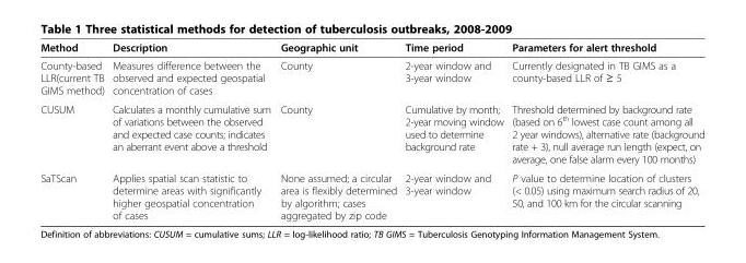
<table><thead><tr><td>Method</td><td>Description</td><td>Geographic unit</td><td>Time period</td><td>Parameters for alert threshold</td></tr></thead><tbody><tr><td>County-based LLR(current TB GIMS method)</td><td>Measures difference between the observed and expected geospatial concentration of cases</td><td>County</td><td>2-year window and 3-year window</td><td>Currently designated in TB GIMS as a county-based LLR of ≥ 5</td></tr><tr><td>CUSUM</td><td>Calculates a monthly cumulative sum of variations between the observed and expected case counts; indicates an aberrant event above a threshold</td><td>County</td><td>Cumulative by month; 2-year moving window used to determine background rate</td><td>Threshold determined by background rate (based on 6<sup>th</sup> lowest case count among all 2 year windows), alternative rate (background rate + 3), null average run length (expect, on average, one false alarm every 100 months)</td></tr><tr><td>SaTScan</td><td>Applies spatial scan statistic to determine areas with significantly higher geospatial concentration of cases</td><td>None assumed; a circular area is flexibly determined by algorithm; cases aggregated by zip code</td><td>2-year window and 3-year window</td><td>P value to determine location of clusters (&lt; 0.05) using maximum search radius of 20, 50, and 100 km for the circular scanning</td></tr></tbody></table>